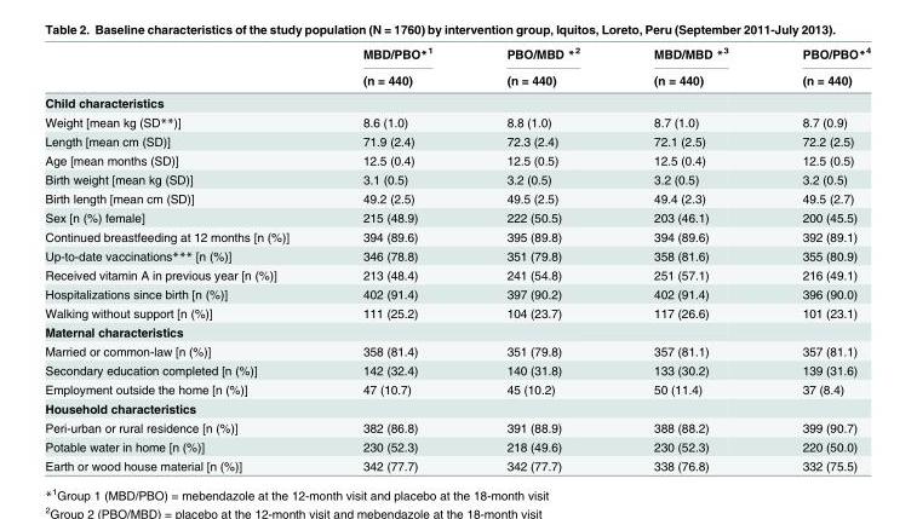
<table><thead><tr><td rowspan="2"></td><td rowspan="2">MBD/PBO*<sup>1</sup> (n = 440)</td><td rowspan="2">PBO/MBD *<sup>2</sup> (n = 440)</td><td rowspan="2">MBD/MBD *<sup>3</sup> (n = 440)</td><td rowspan="2">PBO/PBO*<sup>4</sup> (n = 440)</td></tr><tr></tr></thead><tbody><tr><td colspan="5">Child characteristics</td></tr><tr><td>Weight [mean kg (SD**)]</td><td>8.6 (1.0)</td><td>8.8 (1.0)</td><td>8.7 (1.0)</td><td>8.7 (0.9)</td></tr><tr><td>Length [mean cm (SD)]</td><td>71.9 (2.4)</td><td>72.3 (2.4)</td><td>72.1 (2.5)</td><td>72.2 (2.5)</td></tr><tr><td>Age [mean months (SD)]</td><td>12.5 (0.4)</td><td>12.5 (0.5)</td><td>12.5 (0.4)</td><td>12.5 (0.5)</td></tr><tr><td>Birth weight [mean kg (SD)]</td><td>3.1 (0.5)</td><td>3.2 (0.5)</td><td>3.2 (0.5)</td><td>3.2 (0.5)</td></tr><tr><td>Birth length [mean cm (SD)]</td><td>49.2 (2.5)</td><td>49.5 (2.5)</td><td>49.4 (2.3)</td><td>49.5 (2.7)</td></tr><tr><td>Sex [n (%) female]</td><td>215 (48.9)</td><td>222 (50.5)</td><td>203 (46.1)</td><td>200 (45.5)</td></tr><tr><td>Continued breastfeeding at 12 months [n (%)]</td><td>394 (89.6)</td><td>395 (89.8)</td><td>394 (89.6)</td><td>392 (89.1)</td></tr><tr><td>Up-to-date vaccinations*** [n (%)]</td><td>346 (78.8)</td><td>351 (79.8)</td><td>358 (81.6)</td><td>355 (80.9)</td></tr><tr><td>Received vitamin A in previous year [n (%)]</td><td>213 (48.4)</td><td>241 (54.8)</td><td>251 (57.1)</td><td>216 (49.1)</td></tr><tr><td>Hospitalizations since birth [n (%)]</td><td>402 (91.4)</td><td>397 (90.2)</td><td>402 (91.4)</td><td>396 (90.0)</td></tr><tr><td>Walking without support [n (%)]</td><td>111 (25.2)</td><td>104 (23.7)</td><td>117 (26.6)</td><td>101 (23.1)</td></tr><tr><td colspan="5">Maternal characteristics</td></tr><tr><td>Married or common-law [n (%)]</td><td>358 (81.4)</td><td>351 (79.8)</td><td>357 (81.1)</td><td>357 (81.1)</td></tr><tr><td>Secondary education completed [n (%)]</td><td>142 (32.4)</td><td>140 (31.8)</td><td>133 (30.2)</td><td>139 (31.6)</td></tr><tr><td>Employment outside the home [n (%)]</td><td>47 (10.7)</td><td>45 (10.2)</td><td>50 (11.4)</td><td>37 (8.4)</td></tr><tr><td colspan="5">Household characteristics</td></tr><tr><td>Peri-urban or rural residence [n (%)]</td><td>382 (86.8)</td><td>391 (88.9)</td><td>388 (88.2)</td><td>399 (90.7)</td></tr><tr><td>Potable water in home [n (%)]</td><td>230 (52.3)</td><td>218 (49.6)</td><td>230 (52.3)</td><td>220 (50.0)</td></tr><tr><td>Earth or wood house material [n (%)]</td><td>342 (77.7)</td><td>342 (77.7)</td><td>338 (76.8)</td><td>332 (75.5)</td></tr></tbody></table>